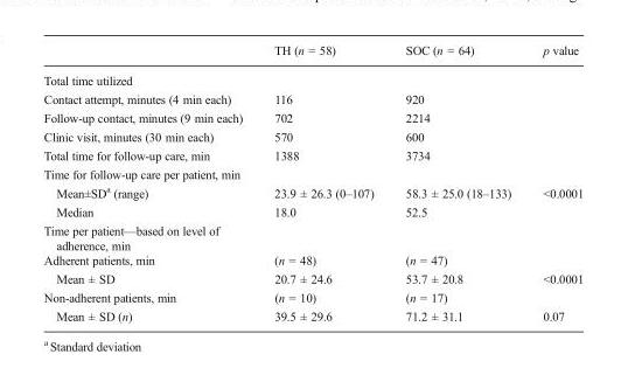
<table><thead><tr><td></td><td>TH (n = 58)</td><td>SOC (n = 64)</td><td>p value</td></tr></thead><tbody><tr><td colspan="4">Total time utilized</td></tr><tr><td>Contact attempt, minutes (4 min each)</td><td>116</td><td>920</td><td></td></tr><tr><td>Follow-up contact, minutes (9 min each)</td><td>702</td><td>2214</td><td></td></tr><tr><td>Clinic visit, minutes (30 min each)</td><td>570</td><td>600</td><td></td></tr><tr><td>Total time for follow-up care, min</td><td>1388</td><td>3734</td><td></td></tr><tr><td colspan="4">Time for follow-up care per patient, min</td></tr><tr><td>Mean±SD<sup>a</sup> (range)</td><td>23.9 ± 26.3 (0–107)</td><td>58.3 ± 25.0 (18–133)</td><td>&lt;0.0001</td></tr><tr><td>Median</td><td>18.0</td><td>52.5</td><td></td></tr><tr><td colspan="4">Time per patient—based on level of adherence, min</td></tr><tr><td>Adherent patients, min</td><td>(n = 48)</td><td>(n = 47)</td><td></td></tr><tr><td>Mean ± SD</td><td>20.7 ± 24.6</td><td>53.7 ± 20.8</td><td>&lt;0.0001</td></tr><tr><td>Non-adherent patients, min</td><td>(n = 10)</td><td>(n = 17)</td><td></td></tr><tr><td>Mean ± SD (n)</td><td>39.5 ± 29.6</td><td>71.2 ± 31.1</td><td>0.07</td></tr></tbody></table>